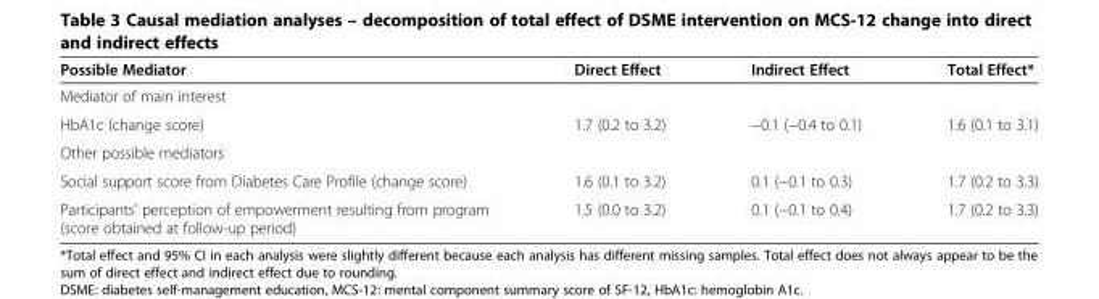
<table><thead><tr><td>Possible Mediator</td><td>Direct Effect</td><td>Indirect Effect</td><td>Total Effect*</td></tr></thead><tbody><tr><td colspan="4">Mediator of main interest</td></tr><tr><td>HbA1c (change score)</td><td>1.7 (0.2 to 3.2)</td><td>−0.1 (−0.4 to 0.1)</td><td>1.6 (0.1 to 3.1)</td></tr><tr><td colspan="4">Other possible mediators</td></tr><tr><td>Social support score from Diabetes Care Profile (change score)</td><td>1.6 (0.1 to 3.2)</td><td>0.1 (−0.1 to 0.3)</td><td>1.7 (0.2 to 3.3)</td></tr><tr><td>Participants’ perception of empowerment resulting from program (score obtained at follow-up period)</td><td>1.5 (0.0 to 3.2)</td><td>0.1 (−0.1 to 0.4)</td><td>1.7 (0.2 to 3.3)</td></tr></tbody></table>